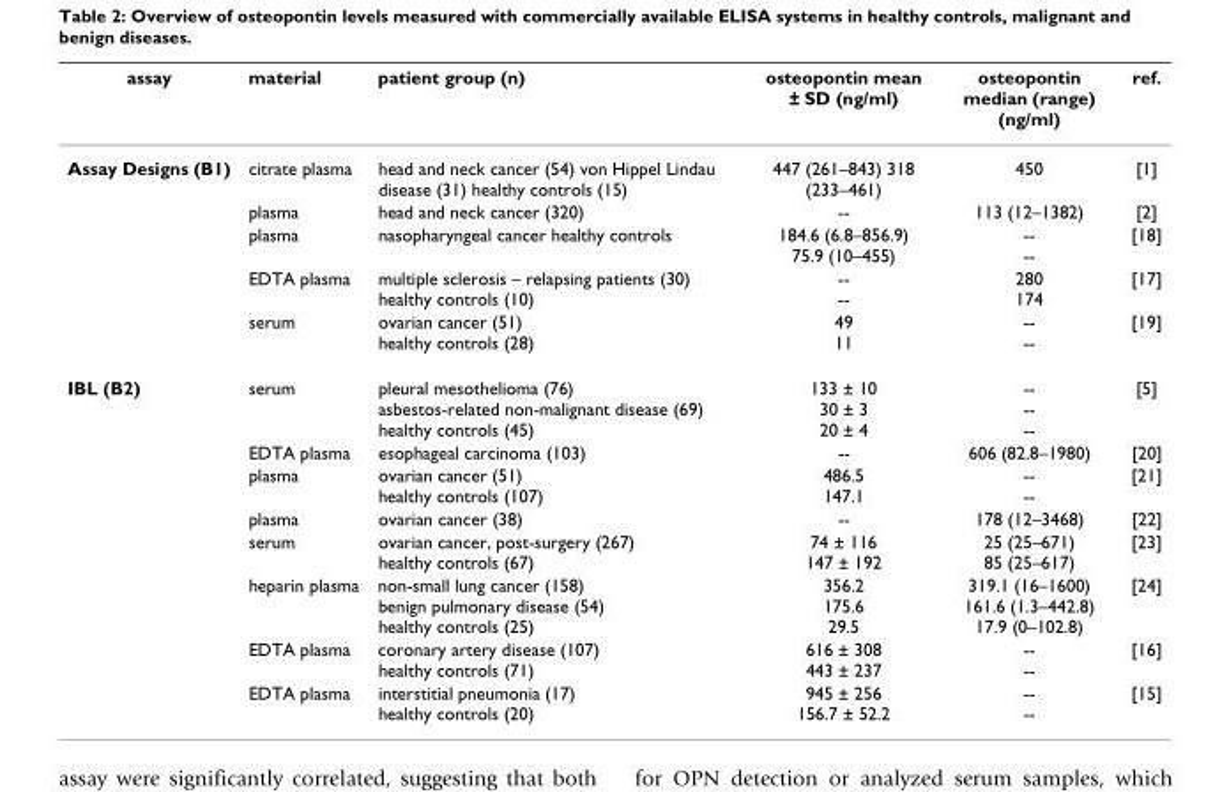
<table><thead><tr><td>assay</td><td>material</td><td>patient group (n)</td><td>osteopontin mean ± SD (ng/ml)</td><td>osteopontin median (range) (ng/ml)</td><td>ref.</td></tr></thead><tbody><tr><td rowspan="5">Assay Designs (B1)</td><td>citrate plasma</td><td>head and neck cancer (54) von Hippel Lindau disease (31) healthy controls (15)</td><td>447 (261–843) 318 (233–461)</td><td>450</td><td>[1]</td></tr><tr><td>plasma</td><td>head and neck cancer (320)</td><td>--</td><td>113 (12–1382)</td><td>[2]</td></tr><tr><td>plasma</td><td>nasopharyngeal cancer healthy controls</td><td>184.6 (6.8–856.9) 75.9 (10–455)</td><td>-- --</td><td>[18]</td></tr><tr><td>EDTA plasma</td><td>multiple sclerosis – relapsing patients (30) healthy controls (10)</td><td>-- --</td><td>280 174</td><td>[17]</td></tr><tr><td>serum</td><td>ovarian cancer (51) healthy controls (28)</td><td>49 11</td><td>-- --</td><td>[19]</td></tr><tr><td rowspan="8">IBL (B2)</td><td>serum</td><td>pleural mesothelioma (76) asbestos-related non-malignant disease (69) healthy controls (45)</td><td>133 ± 10 30 ± 3 20 ± 4</td><td>-- -- --</td><td>[5]</td></tr><tr><td>EDTA plasma</td><td>esophageal carcinoma (103)</td><td>--</td><td>606 (82.8–1980)</td><td>[20]</td></tr><tr><td>plasma</td><td>ovarian cancer (51) healthy controls (107)</td><td>486.5 147.1</td><td>-- --</td><td>[21]</td></tr><tr><td>plasma</td><td>ovarian cancer (38)</td><td>--</td><td>178 (12–3468)</td><td>[22]</td></tr><tr><td>serum</td><td>ovarian cancer, post-surgery (267) healthy controls (67)</td><td>74 ± 116 147 ± 192</td><td>25 (25–671) 85 (25–617)</td><td>[23]</td></tr><tr><td>heparin plasma</td><td>non-small lung cancer (158) benign pulmonary disease (54) healthy controls (25)</td><td>356.2 175.6 29.5</td><td>319.1 (16–1600) 161.6 (1.3–442.8) 17.9 (0–102.8)</td><td>[24]</td></tr><tr><td>EDTA plasma</td><td>coronary artery disease (107) healthy controls (71)</td><td>616 ± 308 443 ± 237</td><td>-- --</td><td>[16]</td></tr><tr><td>EDTA plasma</td><td>interstitial pneumonia (17) healthy controls (20)</td><td>945 ± 256 156.7 ± 52.2</td><td>-- --</td><td>[15]</td></tr></tbody></table>